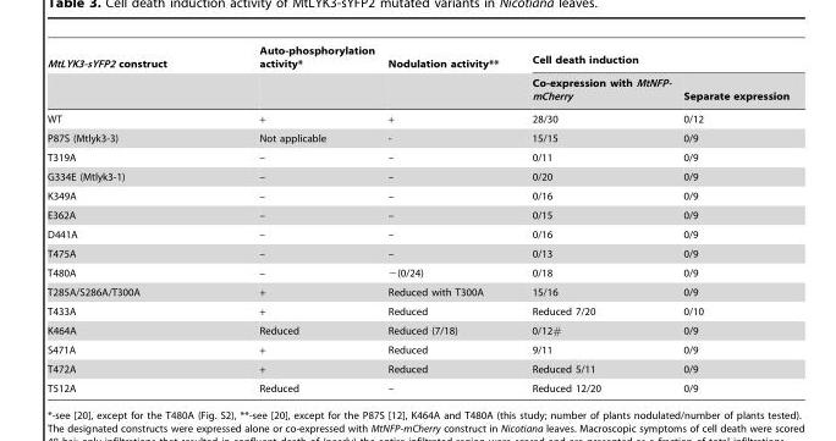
<table><thead><tr><td rowspan="2">MtLYK3-sYFP2 construct</td><td rowspan="2">Auto-phosphorylation activity*</td><td rowspan="2">Nodulation activity**</td><td colspan="2">Cell death induction</td></tr><tr><td>Co-expression with MtNFP- mCherry</td><td>Separate expression</td></tr></thead><tbody><tr><td>WT</td><td>+</td><td>+</td><td>28/30</td><td>0/12</td></tr><tr><td>P87S (Mtlyk3-3)</td><td>Not applicable</td><td>-</td><td>15/15</td><td>0/9</td></tr><tr><td>T319A</td><td>–</td><td>–</td><td>0/11</td><td>0/9</td></tr><tr><td>G334E (Mtlyk3-1)</td><td>–</td><td>–</td><td>0/20</td><td>0/9</td></tr><tr><td>K349A</td><td>–</td><td>–</td><td>0/16</td><td>0/9</td></tr><tr><td>E362A</td><td>–</td><td>–</td><td>0/15</td><td>0/9</td></tr><tr><td>D441A</td><td>–</td><td>–</td><td>0/16</td><td>0/9</td></tr><tr><td>T475A</td><td>–</td><td>–</td><td>0/13</td><td>0/9</td></tr><tr><td>T480A</td><td>–</td><td>−(0/24)</td><td>0/18</td><td>0/9</td></tr><tr><td>T285A/S286A/T300A</td><td>+</td><td>Reduced with T300A</td><td>15/16</td><td>0/9</td></tr><tr><td>T433A</td><td>+</td><td>Reduced</td><td>Reduced 7/20</td><td>0/10</td></tr><tr><td>K464A</td><td>Reduced</td><td>Reduced (7/18)</td><td>0/12#</td><td>0/9</td></tr><tr><td>S471A</td><td>+</td><td>Reduced</td><td>9/11</td><td>0/9</td></tr><tr><td>T472A</td><td>+</td><td>Reduced</td><td>Reduced 5/11</td><td>0/9</td></tr><tr><td>T512A</td><td>Reduced</td><td>–</td><td>Reduced 12/20</td><td>0/9</td></tr></tbody></table>